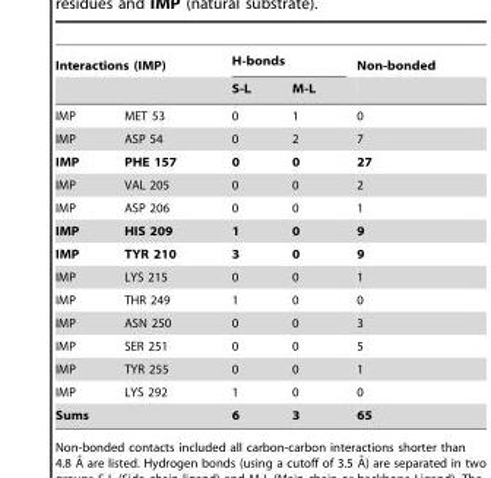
<table><thead><tr><td colspan="2">Interactions (IMP)</td><td colspan="2">H-bonds</td><td rowspan="2">Non-bonded</td></tr><tr><td></td><td></td><td>S-L</td><td>M-L</td></tr></thead><tbody><tr><td>IMP</td><td>MET 53</td><td>0</td><td>1</td><td>0</td></tr><tr><td>IMP</td><td>ASP 54</td><td>0</td><td>2</td><td>7</td></tr><tr><td>IMP</td><td>PHE 157</td><td>0</td><td>0</td><td>27</td></tr><tr><td>IMP</td><td>VAL 205</td><td>0</td><td>0</td><td>2</td></tr><tr><td>IMP</td><td>ASP 206</td><td>0</td><td>0</td><td>1</td></tr><tr><td>IMP</td><td>HIS 209</td><td>1</td><td>0</td><td>9</td></tr><tr><td>IMP</td><td>TYR 210</td><td>3</td><td>0</td><td>9</td></tr><tr><td>IMP</td><td>LYS 215</td><td>0</td><td>0</td><td>1</td></tr><tr><td>IMP</td><td>THR 249</td><td>1</td><td>0</td><td>0</td></tr><tr><td>IMP</td><td>ASN 250</td><td>0</td><td>0</td><td>3</td></tr><tr><td>IMP</td><td>SER 251</td><td>0</td><td>0</td><td>5</td></tr><tr><td>IMP</td><td>TYR 255</td><td>0</td><td>0</td><td>1</td></tr><tr><td>IMP</td><td>LYS 292</td><td>1</td><td>0</td><td>0</td></tr><tr><td>Sums</td><td></td><td>6</td><td>3</td><td>65</td></tr></tbody></table>